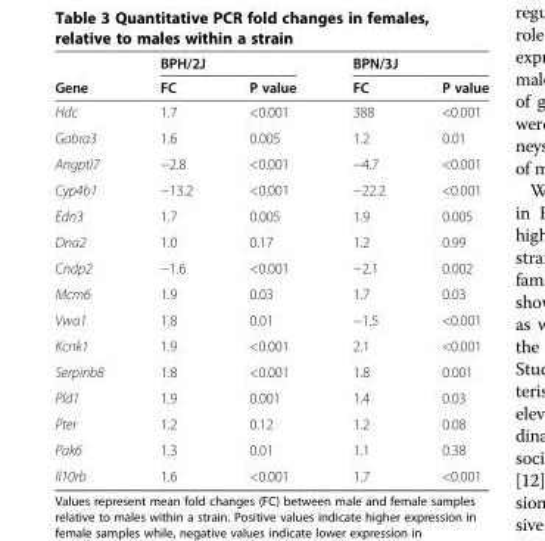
<table><thead><tr><td rowspan="2">Gene</td><td colspan="2">BPH/2J</td><td colspan="2">BPN/3J</td></tr><tr><td>FC</td><td>P value</td><td>FC</td><td>P value</td></tr></thead><tbody><tr><td>Hdc</td><td>1.7</td><td>&lt;0.001</td><td>388</td><td>&lt;0.001</td></tr><tr><td>Gabra3</td><td>1.6</td><td>0.005</td><td>1.2</td><td>0.01</td></tr><tr><td>Angptl7</td><td>−2.8</td><td>&lt;0.001</td><td>−4.7</td><td>&lt;0.001</td></tr><tr><td>Cyp4b1</td><td>−13.2</td><td>&lt;0.001</td><td>−22.2</td><td>&lt;0.001</td></tr><tr><td>Edn3</td><td>1.7</td><td>0.005</td><td>1.9</td><td>0.005</td></tr><tr><td>Dna2</td><td>1.0</td><td>0.17</td><td>1.2</td><td>0.99</td></tr><tr><td>Cndp2</td><td>−1.6</td><td>&lt;0.001</td><td>−2.1</td><td>0.002</td></tr><tr><td>Mcm6</td><td>1.9</td><td>0.03</td><td>1.7</td><td>0.03</td></tr><tr><td>Vwa1</td><td>1.8</td><td>0.01</td><td>−1.5</td><td>&lt;0.001</td></tr><tr><td>Kcnk1</td><td>1.9</td><td>&lt;0.001</td><td>2.1</td><td>&lt;0.001</td></tr><tr><td>Serpinb8</td><td>1.8</td><td>&lt;0.001</td><td>1.8</td><td>0.001</td></tr><tr><td>Pld1</td><td>1.9</td><td>0.001</td><td>1.4</td><td>0.03</td></tr><tr><td>Pter</td><td>1.2</td><td>0.12</td><td>1.2</td><td>0.08</td></tr><tr><td>Pak6</td><td>1.3</td><td>0.01</td><td>1.1</td><td>0.38</td></tr><tr><td>Il10rb</td><td>1.6</td><td>&lt;0.001</td><td>1.7</td><td>&lt;0.001</td></tr></tbody></table>